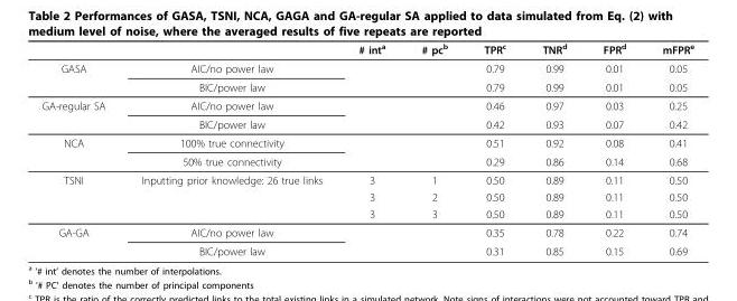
<table><thead><tr><td></td><td></td><td># inta</td><td># pcb</td><td>TPRc</td><td>TNRd</td><td>FPRd</td><td>mFPRe</td></tr></thead><tbody><tr><td rowspan="2">GASA</td><td>AIC/no power law</td><td></td><td></td><td>0.79</td><td>0.99</td><td>0.01</td><td>0.05</td></tr><tr><td>BIC/power law</td><td></td><td></td><td>0.79</td><td>0.99</td><td>0.01</td><td>0.05</td></tr><tr><td rowspan="2">GA-regular SA</td><td>AIC/no power law</td><td></td><td></td><td>0.46</td><td>0.97</td><td>0.03</td><td>0.25</td></tr><tr><td>BIC/power law</td><td></td><td></td><td>0.42</td><td>0.93</td><td>0.07</td><td>0.42</td></tr><tr><td rowspan="2">NCA</td><td>100% true connectivity</td><td></td><td></td><td>0.51</td><td>0.92</td><td>0.08</td><td>0.41</td></tr><tr><td>50% true connectivity</td><td></td><td></td><td>0.29</td><td>0.86</td><td>0.14</td><td>0.68</td></tr><tr><td rowspan="3">TSNI</td><td>Inputting prior knowledge: 26 true links</td><td>3</td><td>1</td><td>0.50</td><td>0.89</td><td>0.11</td><td>0.50</td></tr><tr><td></td><td>3</td><td>2</td><td>0.50</td><td>0.89</td><td>0.11</td><td>0.50</td></tr><tr><td></td><td>3</td><td>3</td><td>0.50</td><td>0.89</td><td>0.11</td><td>0.50</td></tr><tr><td rowspan="2">GA-GA</td><td>AIC/no power law</td><td></td><td></td><td>0.35</td><td>0.78</td><td>0.22</td><td>0.74</td></tr><tr><td>BIC/power law</td><td></td><td></td><td>0.31</td><td>0.85</td><td>0.15</td><td>0.69</td></tr></tbody></table>